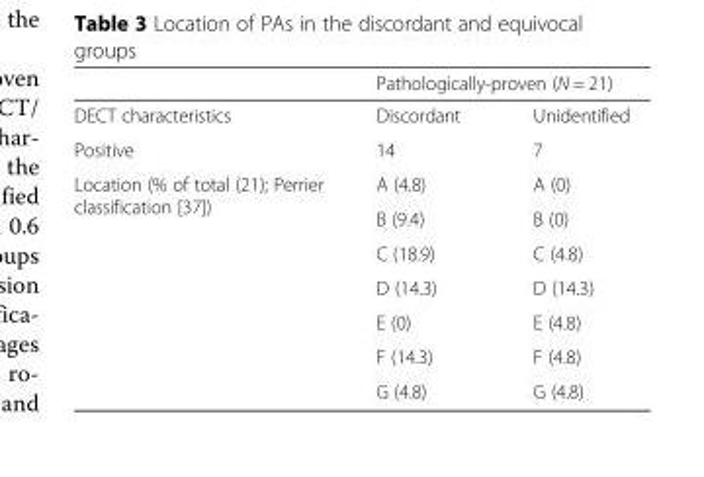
<table><thead><tr><td rowspan="2">DECT characteristics</td><td colspan="2">Pathologically-proven (N = 21)</td></tr><tr><td>Discordant</td><td>Unidentified</td></tr></thead><tbody><tr><td>Positive</td><td>14</td><td>7</td></tr><tr><td rowspan="7">Location (% of total (21); Perrier classification [37])</td><td>A (4.8)</td><td>A (0)</td></tr><tr><td>B (9.4)</td><td>B (0)</td></tr><tr><td>C (18.9)</td><td>C (4.8)</td></tr><tr><td>D (14.3)</td><td>D (14.3)</td></tr><tr><td>E (0)</td><td>E (4.8)</td></tr><tr><td>F (14.3)</td><td>F (4.8)</td></tr><tr><td>G (4.8)</td><td>G (4.8)</td></tr></tbody></table>